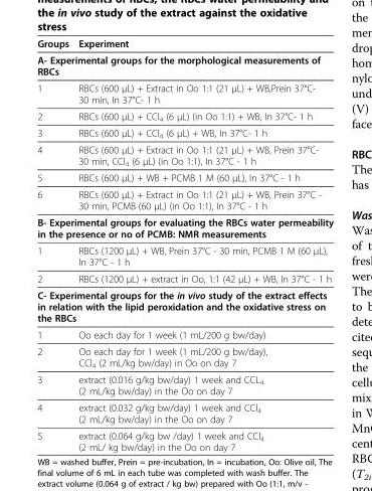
<table><thead><tr><td>Groups</td><td>Experiment</td></tr></thead><tbody><tr><td colspan="2">A- Experimental groups for the morphological measurements of RBCs</td></tr><tr><td>1</td><td>RBCs (600 μL) + Extract in Oo 1:1 (21 μL) + WB,Prein 37°C- 30 min, In 37°C- 1 h</td></tr><tr><td>2</td><td>RBCs (600 μL) + CCl<sub>4</sub> (6 μL) (in Oo 1:1) + WB, In 37°C- 1 h</td></tr><tr><td>3</td><td>RBCs (600 μL) + CCl<sub>4</sub> (6 μL) + WB, In 37°C- 1 h</td></tr><tr><td>4</td><td>RBCs (600 μL) + Extract in Oo 1:1 (21 μL) + WB, Prein 37°C- 30 min, CCl<sub>4</sub> (6 μL) (in Oo 1:1), In 37°C - 1 h</td></tr><tr><td>5</td><td>RBCs (600 μL) + WB + PCMB 1 M (60 μL), In 37°C - 1 h</td></tr><tr><td>6</td><td>RBCs (600 μL) + Extract in Oo 1:1 (21 μL) + WB, Prein 37°C - 30 min, PCMB (60 μL) (in Oo 1:1), In 37°C - 1 h</td></tr><tr><td colspan="2">B- Experimental groups for evaluating the RBCs water permeability in the presence or no of PCMB: NMR measurements</td></tr><tr><td>1</td><td>RBCs (1200 μL) + WB, Prein 37°C - 30 min, PCMB 1 M (60 μL), In 37°C - 1 h</td></tr><tr><td>2</td><td>RBCs (1200 μL) + extract in Oo, 1:1 (42 μL) + WB, In 37°C - 1 h</td></tr><tr><td colspan="2">C- Experimental groups for the in vivo study of the extract effects in relation with the lipid peroxidation and the oxidative stress on the RBCs</td></tr><tr><td>1</td><td>Oo each day for 1 week (1 mL/200 g bw/day)</td></tr><tr><td>2</td><td>Oo each day for 1 week (1 mL/200 g bw/day), CCl<sub>4</sub> (2 mL/kg bw/day) in Oo on day 7</td></tr><tr><td>3</td><td>extract (0.016 g/kg bw/day) 1 week and CCL<sub>4</sub> (2 mL/kg bw/day) in the Oo on day 7</td></tr><tr><td>4</td><td>extract (0.032 g/kg bw/day) 1 week and CCl<sub>4</sub> (2 mL/kg bw/day) in the Oo on day 7</td></tr><tr><td>5</td><td>extract (0.064 g/kg bw /day) 1 week and CCl<sub>4</sub> (2 mL/ kg bw/day) in the Oo on day 7</td></tr></tbody></table>